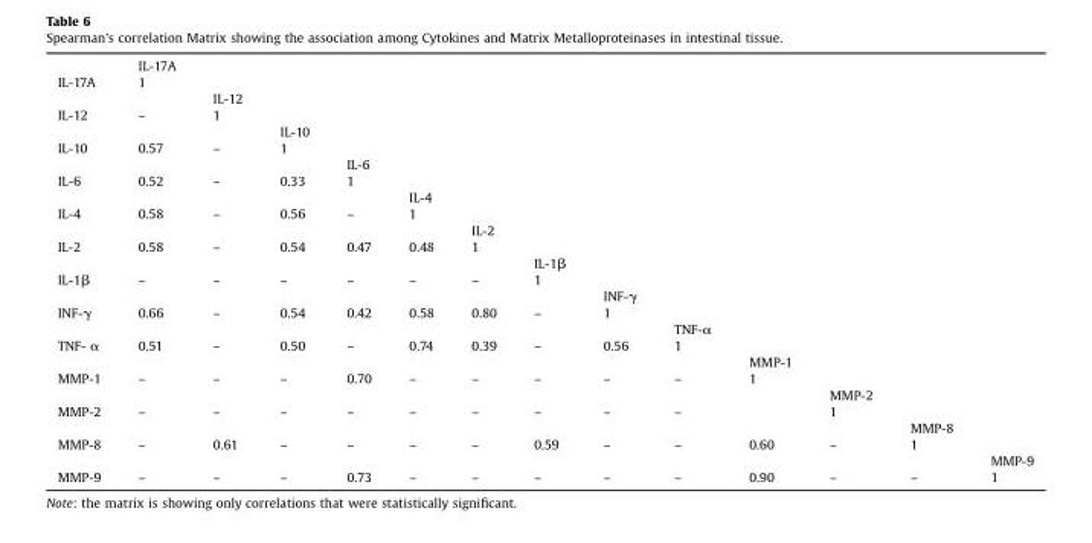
<table><thead><tr><td></td><td>IL-17A</td><td></td><td></td><td></td><td></td><td></td><td></td><td></td><td></td><td></td><td></td><td></td><td></td></tr></thead><tbody><tr><td rowspan="2">IL-17A</td><td>1</td><td></td><td></td><td></td><td></td><td></td><td></td><td></td><td></td><td></td><td></td><td></td><td></td></tr><tr><td></td><td>IL-12</td><td></td><td></td><td></td><td></td><td></td><td></td><td></td><td></td><td></td><td></td><td></td></tr><tr><td rowspan="2">IL-12</td><td>–</td><td>1</td><td></td><td></td><td></td><td></td><td></td><td></td><td></td><td></td><td></td><td></td><td></td></tr><tr><td></td><td></td><td>IL-10</td><td></td><td></td><td></td><td></td><td></td><td></td><td></td><td></td><td></td><td></td></tr><tr><td rowspan="2">IL-10</td><td>0.57</td><td>–</td><td>1</td><td></td><td></td><td></td><td></td><td></td><td></td><td></td><td></td><td></td><td></td></tr><tr><td></td><td></td><td></td><td>IL-6</td><td></td><td></td><td></td><td></td><td></td><td></td><td></td><td></td><td></td></tr><tr><td rowspan="2">IL-6</td><td>0.52</td><td>–</td><td>0.33</td><td>1</td><td></td><td></td><td></td><td></td><td></td><td></td><td></td><td></td><td></td></tr><tr><td></td><td></td><td></td><td></td><td>IL-4</td><td></td><td></td><td></td><td></td><td></td><td></td><td></td><td></td></tr><tr><td rowspan="2">IL-4</td><td>0.58</td><td>–</td><td>0.56</td><td>–</td><td>1</td><td></td><td></td><td></td><td></td><td></td><td></td><td></td><td></td></tr><tr><td></td><td></td><td></td><td></td><td></td><td>IL-2</td><td></td><td></td><td></td><td></td><td></td><td></td><td></td></tr><tr><td rowspan="2">IL-2</td><td>0.58</td><td>–</td><td>0.54</td><td>0.47</td><td>0.48</td><td>1</td><td></td><td></td><td></td><td></td><td></td><td></td><td></td></tr><tr><td></td><td></td><td></td><td></td><td></td><td></td><td>IL-1β</td><td></td><td></td><td></td><td></td><td></td><td></td></tr><tr><td rowspan="2">IL-1β</td><td>–</td><td>–</td><td>–</td><td>–</td><td>–</td><td>–</td><td>1</td><td></td><td></td><td></td><td></td><td></td><td></td></tr><tr><td></td><td></td><td></td><td></td><td></td><td></td><td></td><td>INF-γ</td><td></td><td></td><td></td><td></td><td></td></tr><tr><td rowspan="2">INF-γ</td><td>0.66</td><td>–</td><td>0.54</td><td>0.42</td><td>0.58</td><td>0.80</td><td>–</td><td>1</td><td></td><td></td><td></td><td></td><td></td></tr><tr><td></td><td></td><td></td><td></td><td></td><td></td><td></td><td></td><td>TNF-α</td><td></td><td></td><td></td><td></td></tr><tr><td rowspan="2">TNF- α</td><td>0.51</td><td>–</td><td>0.50</td><td>–</td><td>0.74</td><td>0.39</td><td>–</td><td>0.56</td><td>1</td><td></td><td></td><td></td><td></td></tr><tr><td></td><td></td><td></td><td></td><td></td><td></td><td></td><td></td><td></td><td>MMP-1</td><td></td><td></td><td></td></tr><tr><td rowspan="2">MMP-1</td><td>–</td><td>–</td><td>–</td><td>0.70</td><td>–</td><td>–</td><td>–</td><td>–</td><td>–</td><td>1</td><td></td><td></td><td></td></tr><tr><td></td><td></td><td></td><td></td><td></td><td></td><td></td><td></td><td></td><td></td><td>MMP-2</td><td></td><td></td></tr><tr><td rowspan="2">MMP-2</td><td>–</td><td>–</td><td>–</td><td>–</td><td>–</td><td>–</td><td>–</td><td>–</td><td>–</td><td></td><td>1</td><td></td><td></td></tr><tr><td></td><td></td><td></td><td></td><td></td><td></td><td></td><td></td><td></td><td></td><td></td><td>MMP-8</td><td></td></tr><tr><td rowspan="2">MMP-8</td><td>–</td><td>0.61</td><td>–</td><td>–</td><td>–</td><td>–</td><td>0.59</td><td>–</td><td>–</td><td>0.60</td><td>–</td><td>1</td><td></td></tr><tr><td></td><td></td><td></td><td></td><td></td><td></td><td></td><td></td><td></td><td></td><td></td><td></td><td>MMP-9</td></tr><tr><td>MMP-9</td><td>–</td><td>–</td><td>–</td><td>0.73</td><td>–</td><td>–</td><td>–</td><td>–</td><td>–</td><td>0.90</td><td>–</td><td>–</td><td>1</td></tr></tbody></table>